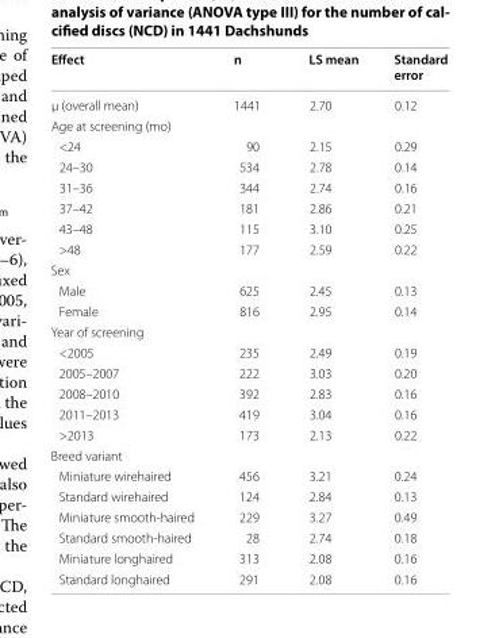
<table><thead><tr><td>Effect</td><td>n</td><td>LS mean</td><td>Standard error</td></tr></thead><tbody><tr><td>µ (overall mean)</td><td>1441</td><td>2.70</td><td>0.12</td></tr><tr><td colspan="4">Age at screening (mo)</td></tr><tr><td>&lt;24</td><td>90</td><td>2.15</td><td>0.29</td></tr><tr><td>24–30</td><td>534</td><td>2.78</td><td>0.14</td></tr><tr><td>31–36</td><td>344</td><td>2.74</td><td>0.16</td></tr><tr><td>37–42</td><td>181</td><td>2.86</td><td>0.21</td></tr><tr><td>43–48</td><td>115</td><td>3.10</td><td>0.25</td></tr><tr><td>&gt;48</td><td>177</td><td>2.59</td><td>0.22</td></tr><tr><td colspan="4">Sex</td></tr><tr><td>Male</td><td>625</td><td>2.45</td><td>0.13</td></tr><tr><td>Female</td><td>816</td><td>2.95</td><td>0.14</td></tr><tr><td colspan="4">Year of screening</td></tr><tr><td>&lt;2005</td><td>235</td><td>2.49</td><td>0.19</td></tr><tr><td>2005–2007</td><td>222</td><td>3.03</td><td>0.20</td></tr><tr><td>2008–2010</td><td>392</td><td>2.83</td><td>0.16</td></tr><tr><td>2011–2013</td><td>419</td><td>3.04</td><td>0.16</td></tr><tr><td>&gt;2013</td><td>173</td><td>2.13</td><td>0.22</td></tr><tr><td colspan="4">Breed variant</td></tr><tr><td>Miniature wirehaired</td><td>456</td><td>3.21</td><td>0.24</td></tr><tr><td>Standard wirehaired</td><td>124</td><td>2.84</td><td>0.13</td></tr><tr><td>Miniature smooth‑haired</td><td>229</td><td>3.27</td><td>0.49</td></tr><tr><td>Standard smooth‑haired</td><td>28</td><td>2.74</td><td>0.18</td></tr><tr><td>Miniature longhaired</td><td>313</td><td>2.08</td><td>0.16</td></tr><tr><td>Standard longhaired</td><td>291</td><td>2.08</td><td>0.16</td></tr></tbody></table>